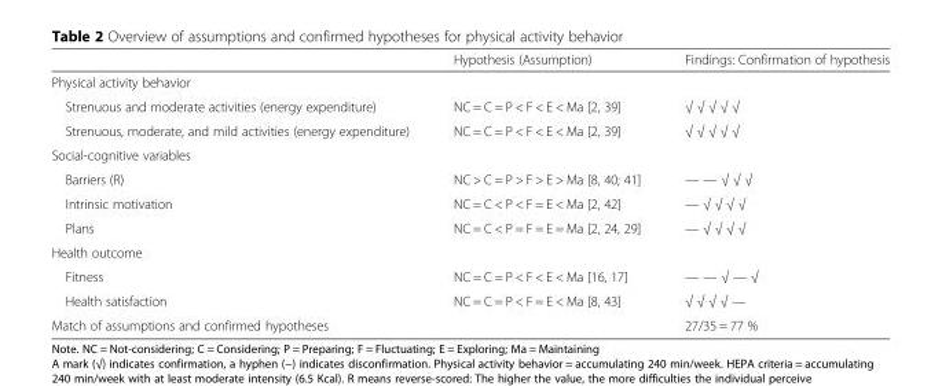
<table><thead><tr><td></td><td>Hypothesis (Assumption)</td><td>Findings: Confirmation of hypothesis</td></tr></thead><tbody><tr><td colspan="3">Physical activity behavior</td></tr><tr><td>Strenuous and moderate activities (energy expenditure)</td><td>NC = C = P &lt; F &lt; E &lt; Ma [2, 39]</td><td>√ √ √ √ √</td></tr><tr><td>Strenuous, moderate, and mild activities (energy expenditure)</td><td>NC = C = P &lt; F &lt; E &lt; Ma [2, 39]</td><td>√ √ √ √ √</td></tr><tr><td colspan="3">Social-cognitive variables</td></tr><tr><td>Barriers (R)</td><td>NC &gt; C = P &gt; F &gt; E &gt; Ma [8, 40; 41]</td><td>— — √ √ √</td></tr><tr><td>Intrinsic motivation</td><td>NC = C &lt; P &lt; F = E &lt; Ma [2, 42]</td><td>— √ √ √ √</td></tr><tr><td>Plans</td><td>NC = C &lt; P = F = E = Ma [2, 24, 29]</td><td>— √ √ √ √</td></tr><tr><td colspan="3">Health outcome</td></tr><tr><td>Fitness</td><td>NC = C = P &lt; F &lt; E &lt; Ma [16, 17]</td><td>— — √ — √</td></tr><tr><td>Health satisfaction</td><td>NC = C = P &lt; F = E &lt; Ma [8, 43]</td><td>√ √ √ √ —</td></tr><tr><td>Match of assumptions and confirmed hypotheses</td><td></td><td>27/35 = 77 %</td></tr></tbody></table>